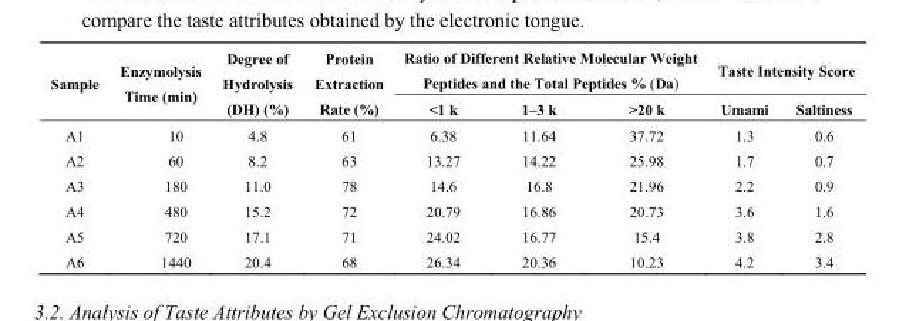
<table><thead><tr><td rowspan="2">Sample</td><td rowspan="2">Enzymolysis Time (min)</td><td rowspan="2">Degree of Hydrolysis (DH) (%)</td><td rowspan="2">Protein Extraction Rate (%)</td><td colspan="3">Ratio of Different Relative Molecular Weight Peptides and the Total Peptides % (Da)</td><td colspan="2">Taste Intensity Score</td></tr><tr><td>&lt;1 k</td><td>1–3 k</td><td>&gt;20 k</td><td>Umami</td><td>Saltiness</td></tr></thead><tbody><tr><td>A1</td><td>10</td><td>4.8</td><td>61</td><td>6.38</td><td>11.64</td><td>37.72</td><td>1.3</td><td>0.6</td></tr><tr><td>A2</td><td>60</td><td>8.2</td><td>63</td><td>13.27</td><td>14.22</td><td>25.98</td><td>1.7</td><td>0.7</td></tr><tr><td>A3</td><td>180</td><td>11.0</td><td>78</td><td>14.6</td><td>16.8</td><td>21.96</td><td>2.2</td><td>0.9</td></tr><tr><td>A4</td><td>480</td><td>15.2</td><td>72</td><td>20.79</td><td>16.86</td><td>20.73</td><td>3.6</td><td>1.6</td></tr><tr><td>A5</td><td>720</td><td>17.1</td><td>71</td><td>24.02</td><td>16.77</td><td>15.4</td><td>3.8</td><td>2.8</td></tr><tr><td>A6</td><td>1440</td><td>20.4</td><td>68</td><td>26.34</td><td>20.36</td><td>10.23</td><td>4.2</td><td>3.4</td></tr></tbody></table>